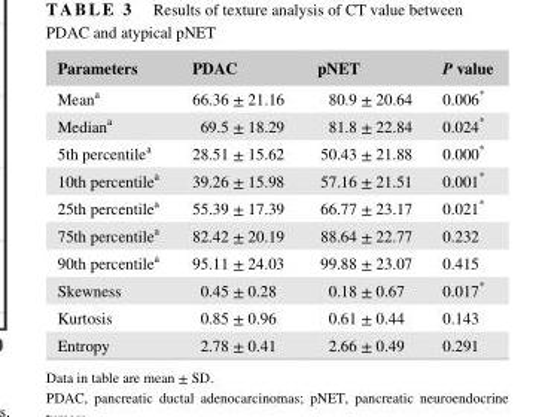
<table><thead><tr><td>Parameters</td><td>PDAC</td><td>pNET</td><td>P value</td></tr></thead><tbody><tr><td>Mean<sup>a</sup></td><td>66.36 ± 21.16</td><td>80.9 ± 20.64</td><td>0.006*</td></tr><tr><td>Median<sup>a</sup></td><td>69.5 ± 18.29</td><td>81.8 ± 22.84</td><td>0.024*</td></tr><tr><td>5th percentile<sup>a</sup></td><td>28.51 ± 15.62</td><td>50.43 ± 21.88</td><td>0.000*</td></tr><tr><td>10th percentile<sup>a</sup></td><td>39.26 ± 15.98</td><td>57.16 ± 21.51</td><td>0.001*</td></tr><tr><td>25th percentile<sup>a</sup></td><td>55.39 ± 17.39</td><td>66.77 ± 23.17</td><td>0.021*</td></tr><tr><td>75th percentile<sup>a</sup></td><td>82.42 ± 20.19</td><td>88.64 ± 22.77</td><td>0.232</td></tr><tr><td>90th percentile<sup>a</sup></td><td>95.11 ± 24.03</td><td>99.88 ± 23.07</td><td>0.415</td></tr><tr><td>Skewness</td><td>0.45 ± 0.28</td><td>0.18 ± 0.67</td><td>0.017*</td></tr><tr><td>Kurtosis</td><td>0.85 ± 0.96</td><td>0.61 ± 0.44</td><td>0.143</td></tr><tr><td>Entropy</td><td>2.78 ± 0.41</td><td>2.66 ± 0.49</td><td>0.291</td></tr></tbody></table>